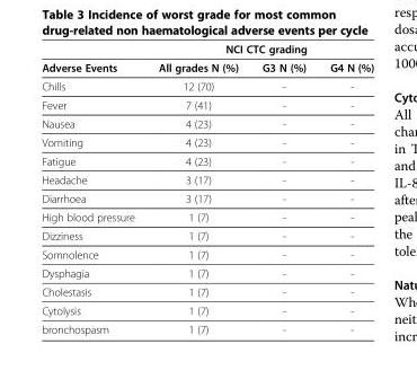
<table><thead><tr><td rowspan="2">Adverse Events</td><td colspan="3">NCI CTC grading</td></tr><tr><td>All grades N (%)</td><td>G3 N (%)</td><td>G4 N (%)</td></tr></thead><tbody><tr><td>Chills</td><td>12 (70)</td><td>-</td><td>-</td></tr><tr><td>Fever</td><td>7 (41)</td><td>-</td><td>-</td></tr><tr><td>Nausea</td><td>4 (23)</td><td>-</td><td>-</td></tr><tr><td>Vomiting</td><td>4 (23)</td><td>-</td><td>-</td></tr><tr><td>Fatigue</td><td>4 (23)</td><td>-</td><td>-</td></tr><tr><td>Headache</td><td>3 (17)</td><td>-</td><td>-</td></tr><tr><td>Diarrhoea</td><td>3 (17)</td><td>-</td><td>-</td></tr><tr><td>High blood pressure</td><td>1 (7)</td><td>-</td><td>-</td></tr><tr><td>Dizziness</td><td>1 (7)</td><td>-</td><td>-</td></tr><tr><td>Somnolence</td><td>1 (7)</td><td>-</td><td>-</td></tr><tr><td>Dysphagia</td><td>1 (7)</td><td>-</td><td>-</td></tr><tr><td>Cholestasis</td><td>1 (7)</td><td>-</td><td>-</td></tr><tr><td>Cytolysis</td><td>1 (7)</td><td>-</td><td>-</td></tr><tr><td>bronchospasm</td><td>1 (7)</td><td>-</td><td>-</td></tr></tbody></table>